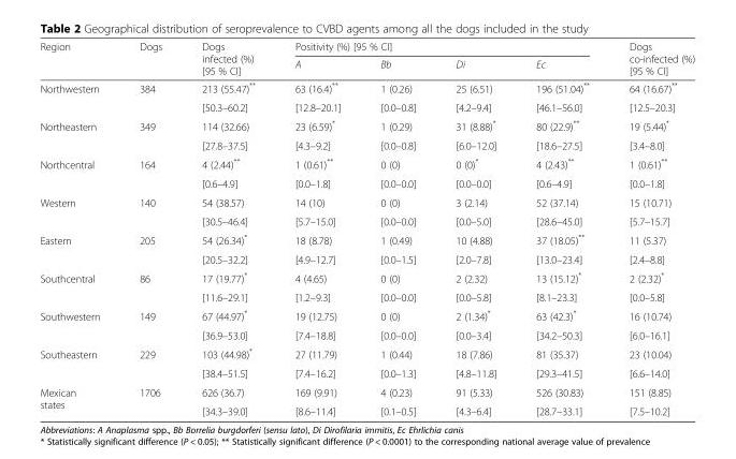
<table><thead><tr><td rowspan="2">Region</td><td rowspan="2">Dogs</td><td rowspan="2">Dogs infected (%) [95 % CI]</td><td colspan="4">Positivity (%) [95 % CI]</td><td rowspan="2">Dogs co-infected (%) [95 % CI]</td></tr><tr><td>A</td><td>Bb</td><td>Di</td><td>Ec</td></tr></thead><tbody><tr><td rowspan="2">Northwestern</td><td rowspan="2">384</td><td>213 (55.47)**</td><td>63 (16.4)**</td><td>1 (0.26)</td><td>25 (6.51)</td><td>196 (51.04)**</td><td>64 (16.67)**</td></tr><tr><td>[50.3–60.2]</td><td>[12.8–20.1]</td><td>[0.0–0.8]</td><td>[4.2–9.4]</td><td>[46.1–56.0]</td><td>[12.5–20.3]</td></tr><tr><td rowspan="2">Northeastern</td><td rowspan="2">349</td><td>114 (32.66)</td><td>23 (6.59)*</td><td>1 (0.29)</td><td>31 (8.88)*</td><td>80 (22.9)**</td><td>19 (5.44)*</td></tr><tr><td>[27.8–37.5]</td><td>[4.3–9.2]</td><td>[0.0–0.8]</td><td>[6.0–12.0]</td><td>[18.6–27.5]</td><td>[3.4–8.0]</td></tr><tr><td rowspan="2">Northcentral</td><td rowspan="2">164</td><td>4 (2.44)**</td><td>1 (0.61)**</td><td>0 (0)</td><td>0 (0)*</td><td>4 (2.43)**</td><td>1 (0.61)**</td></tr><tr><td>[0.6–4.9]</td><td>[0.0–1.8]</td><td>[0.0–0.0]</td><td>[0.0–0.0]</td><td>[0.6–4.9]</td><td>[0.0–1.8]</td></tr><tr><td rowspan="2">Western</td><td rowspan="2">140</td><td>54 (38.57)</td><td>14 (10)</td><td>0 (0)</td><td>3 (2.14)</td><td>52 (37.14)</td><td>15 (10.71)</td></tr><tr><td>[30.5–46.4]</td><td>[5.7–15.0]</td><td>[0.0–0.0]</td><td>[0.0–5.0]</td><td>[28.6–45.0]</td><td>[5.7–15.7]</td></tr><tr><td rowspan="2">Eastern</td><td rowspan="2">205</td><td>54 (26.34)*</td><td>18 (8.78)</td><td>1 (0.49)</td><td>10 (4.88)</td><td>37 (18.05)**</td><td>11 (5.37)</td></tr><tr><td>[20.5–32.2]</td><td>[4.9–12.7]</td><td>[0.0–1.5]</td><td>[2.0–7.8]</td><td>[13.0–23.4]</td><td>[2.4–8.8]</td></tr><tr><td rowspan="2">Southcentral</td><td rowspan="2">86</td><td>17 (19.77)*</td><td>4 (4.65)</td><td>0 (0)</td><td>2 (2.32)</td><td>13 (15.12)*</td><td>2 (2.32)*</td></tr><tr><td>[11.6–29.1]</td><td>[1.2–9.3]</td><td>[0.0–0.0]</td><td>[0.0–5.8]</td><td>[8.1–23.3]</td><td>[0.0–5.8]</td></tr><tr><td rowspan="2">Southwestern</td><td rowspan="2">149</td><td>67 (44.97)*</td><td>19 (12.75)</td><td>0 (0)</td><td>2 (1.34)*</td><td>63 (42.3)*</td><td>16 (10.74)</td></tr><tr><td>[36.9–53.0]</td><td>[7.4–18.8]</td><td>[0.0–0.0]</td><td>[0.0–3.4]</td><td>[34.2–50.3]</td><td>[6.0–16.1]</td></tr><tr><td rowspan="2">Southeastern</td><td rowspan="2">229</td><td>103 (44.98)*</td><td>27 (11.79)</td><td>1 (0.44)</td><td>18 (7.86)</td><td>81 (35.37)</td><td>23 (10.04)</td></tr><tr><td>[38.4–51.5]</td><td>[7.4–16.2]</td><td>[0.0–1.3]</td><td>[4.8–11.8]</td><td>[29.3–41.5]</td><td>[6.6–14.0]</td></tr><tr><td rowspan="2">Mexican states</td><td rowspan="2">1706</td><td>626 (36.7)</td><td>169 (9.91)</td><td>4 (0.23)</td><td>91 (5.33)</td><td>526 (30.83)</td><td>151 (8.85)</td></tr><tr><td>[34.3–39.0]</td><td>[8.6–11.4]</td><td>[0.1–0.5]</td><td>[4.3–6.4]</td><td>[28.7–33.1]</td><td>[7.5–10.2]</td></tr></tbody></table>